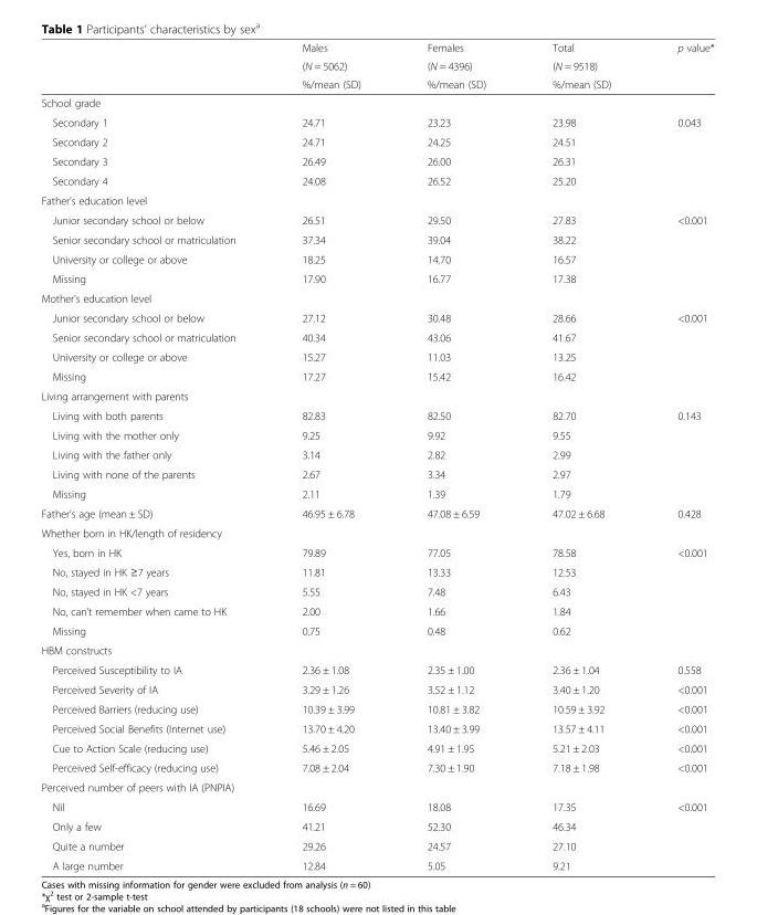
<table><thead><tr><td rowspan="3"></td><td rowspan="3">Males (N = 5062) %/mean (SD)</td><td rowspan="3">Females (N = 4396) %/mean (SD)</td><td rowspan="3">Total (N = 9518) %/mean (SD)</td><td rowspan="3">p value*</td></tr><tr></tr><tr></tr></thead><tbody><tr><td colspan="5">School grade</td></tr><tr><td>Secondary 1</td><td>24.71</td><td>23.23</td><td>23.98</td><td>0.043</td></tr><tr><td>Secondary 2</td><td>24.71</td><td>24.25</td><td>24.51</td><td></td></tr><tr><td>Secondary 3</td><td>26.49</td><td>26.00</td><td>26.31</td><td></td></tr><tr><td>Secondary 4</td><td>24.08</td><td>26.52</td><td>25.20</td><td></td></tr><tr><td colspan="5">Father’s education level</td></tr><tr><td>Junior secondary school or below</td><td>26.51</td><td>29.50</td><td>27.83</td><td>&lt;0.001</td></tr><tr><td>Senior secondary school or matriculation</td><td>37.34</td><td>39.04</td><td>38.22</td><td></td></tr><tr><td>University or college or above</td><td>18.25</td><td>14.70</td><td>16.57</td><td></td></tr><tr><td>Missing</td><td>17.90</td><td>16.77</td><td>17.38</td><td></td></tr><tr><td colspan="5">Mother’s education level</td></tr><tr><td>Junior secondary school or below</td><td>27.12</td><td>30.48</td><td>28.66</td><td>&lt;0.001</td></tr><tr><td>Senior secondary school or matriculation</td><td>40.34</td><td>43.06</td><td>41.67</td><td></td></tr><tr><td>University or college or above</td><td>15.27</td><td>11.03</td><td>13.25</td><td></td></tr><tr><td>Missing</td><td>17.27</td><td>15.42</td><td>16.42</td><td></td></tr><tr><td colspan="5">Living arrangement with parents</td></tr><tr><td>Living with both parents</td><td>82.83</td><td>82.50</td><td>82.70</td><td>0.143</td></tr><tr><td>Living with the mother only</td><td>9.25</td><td>9.92</td><td>9.55</td><td></td></tr><tr><td>Living with the father only</td><td>3.14</td><td>2.82</td><td>2.99</td><td></td></tr><tr><td>Living with none of the parents</td><td>2.67</td><td>3.34</td><td>2.97</td><td></td></tr><tr><td>Missing</td><td>2.11</td><td>1.39</td><td>1.79</td><td></td></tr><tr><td>Father’s age (mean ± SD)</td><td>46.95 ± 6.78</td><td>47.08 ± 6.59</td><td>47.02 ± 6.68</td><td>0.428</td></tr><tr><td colspan="5">Whether born in HK/length of residency</td></tr><tr><td>Yes, born in HK</td><td>79.89</td><td>77.05</td><td>78.58</td><td>&lt;0.001</td></tr><tr><td>No, stayed in HK ≥7 years</td><td>11.81</td><td>13.33</td><td>12.53</td><td></td></tr><tr><td>No, stayed in HK &lt;7 years</td><td>5.55</td><td>7.48</td><td>6.43</td><td></td></tr><tr><td>No, can’t remember when came to HK</td><td>2.00</td><td>1.66</td><td>1.84</td><td></td></tr><tr><td>Missing</td><td>0.75</td><td>0.48</td><td>0.62</td><td></td></tr><tr><td colspan="5">HBM constructs</td></tr><tr><td>Perceived Susceptibility to IA</td><td>2.36 ± 1.08</td><td>2.35 ± 1.00</td><td>2.36 ± 1.04</td><td>0.558</td></tr><tr><td>Perceived Severity of IA</td><td>3.29 ± 1.26</td><td>3.52 ± 1.12</td><td>3.40 ± 1.20</td><td>&lt;0.001</td></tr><tr><td>Perceived Barriers (reducing use)</td><td>10.39 ± 3.99</td><td>10.81 ± 3.82</td><td>10.59 ± 3.92</td><td>&lt;0.001</td></tr><tr><td>Perceived Social Benefits (Internet use)</td><td>13.70 ± 4.20</td><td>13.40 ± 3.99</td><td>13.57 ± 4.11</td><td>&lt;0.001</td></tr><tr><td>Cue to Action Scale (reducing use)</td><td>5.46 ± 2.05</td><td>4.91 ± 1.95</td><td>5.21 ± 2.03</td><td>&lt;0.001</td></tr><tr><td>Perceived Self-efficacy (reducing use)</td><td>7.08 ± 2.04</td><td>7.30 ± 1.90</td><td>7.18 ± 1.98</td><td>&lt;0.001</td></tr><tr><td colspan="5">Perceived number of peers with IA (PNPIA)</td></tr><tr><td>Nil</td><td>16.69</td><td>18.08</td><td>17.35</td><td>&lt;0.001</td></tr><tr><td>Only a few</td><td>41.21</td><td>52.30</td><td>46.34</td><td></td></tr><tr><td>Quite a number</td><td>29.26</td><td>24.57</td><td>27.10</td><td></td></tr><tr><td>A large number</td><td>12.84</td><td>5.05</td><td>9.21</td><td></td></tr></tbody></table>